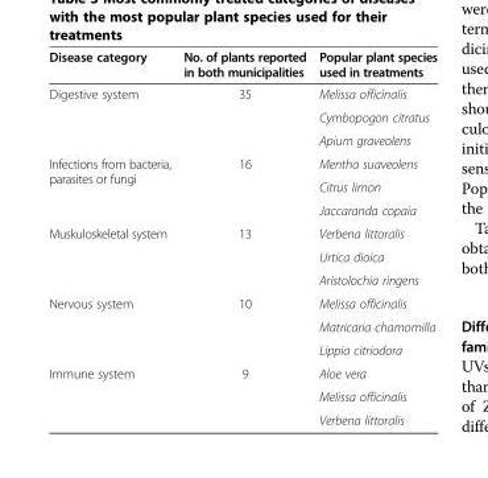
<table><thead><tr><td>Disease category</td><td>No. of plants reported in both municipalities</td><td>Popular plant species used in treatments</td></tr></thead><tbody><tr><td rowspan="3">Digestive system</td><td rowspan="3">35</td><td>Melissa officinalis</td></tr><tr><td>Cymbopogon citratus</td></tr><tr><td>Apium graveolens</td></tr><tr><td rowspan="3">Infections from bacteria, parasites or fungi</td><td rowspan="3">16</td><td>Mentha suaveolens</td></tr><tr><td>Citrus limon</td></tr><tr><td>Jaccaranda copaia</td></tr><tr><td rowspan="3">Muskuloskeletal system</td><td rowspan="3">13</td><td>Verbena littoralis</td></tr><tr><td>Urtica dioica</td></tr><tr><td>Aristolochia ringens</td></tr><tr><td rowspan="3">Nervous system</td><td rowspan="3">10</td><td>Melissa officinalis</td></tr><tr><td>Matricaria chamomilla</td></tr><tr><td>Lippia citriodora</td></tr><tr><td rowspan="3">Immune system</td><td rowspan="3">9</td><td>Aloe vera</td></tr><tr><td>Melissa officinalis</td></tr><tr><td>Verbena littoralis</td></tr></tbody></table>